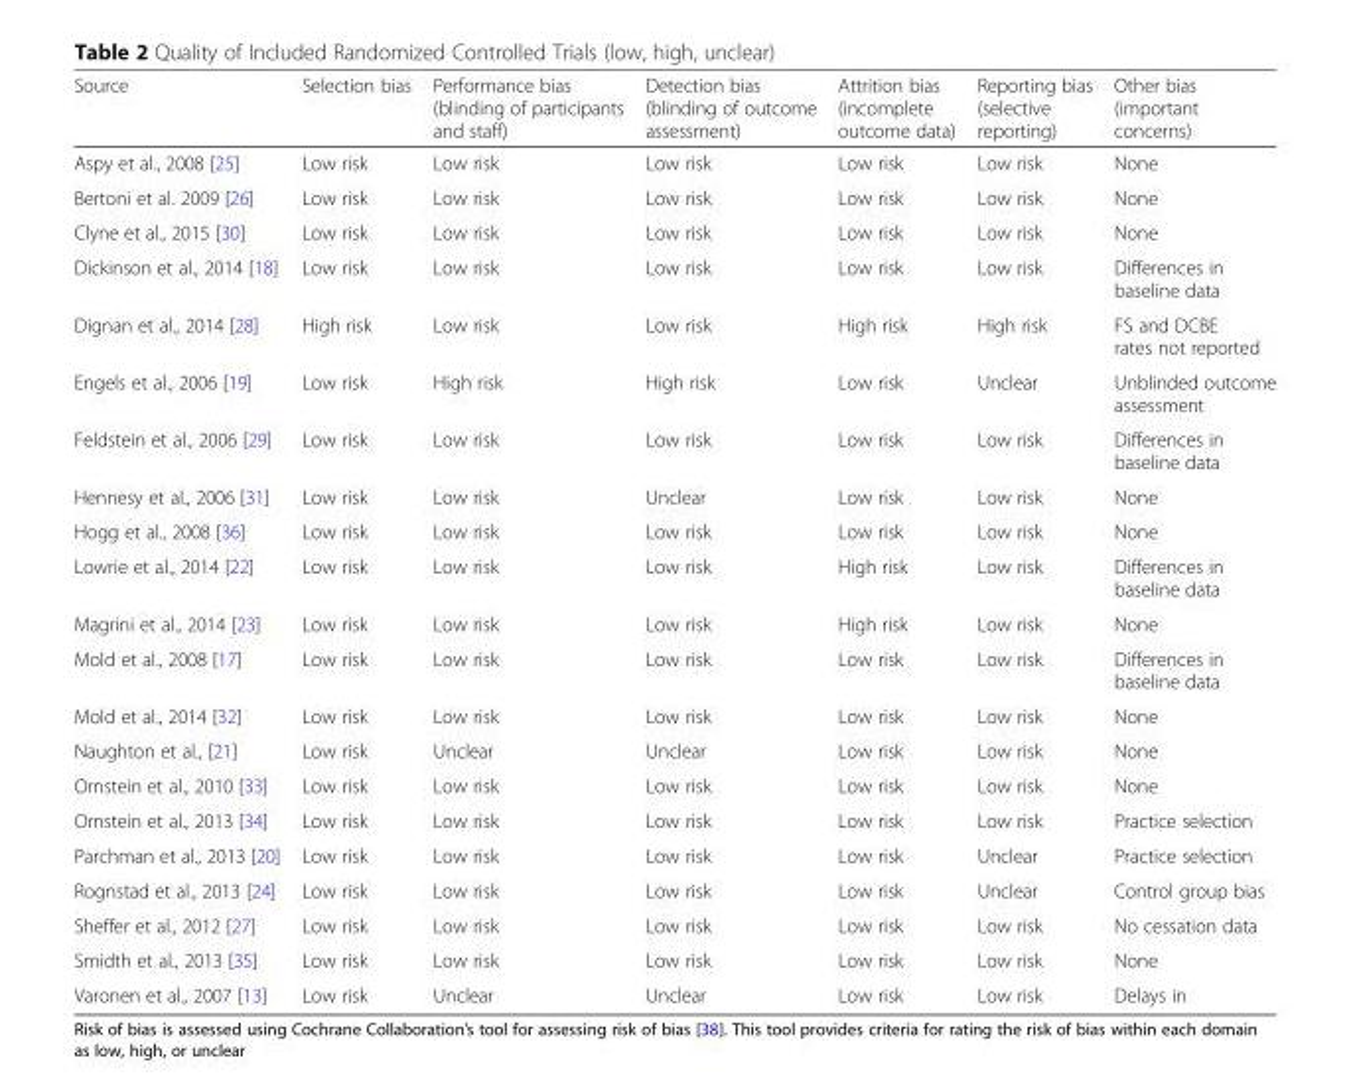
<table><thead><tr><td>Source</td><td>Selection bias</td><td>Performance bias (blinding of participants and staff)</td><td>Detection bias (blinding of outcome assessment)</td><td>Attrition bias (incomplete outcome data)</td><td>Reporting bias (selective reporting)</td><td>Other bias (important concerns)</td></tr></thead><tbody><tr><td>Aspy et al., 2008 [25]</td><td>Low risk</td><td>Low risk</td><td>Low risk</td><td>Low risk</td><td>Low risk</td><td>None</td></tr><tr><td>Bertoni et al. 2009 [26]</td><td>Low risk</td><td>Low risk</td><td>Low risk</td><td>Low risk</td><td>Low risk</td><td>None</td></tr><tr><td>Clyne et al., 2015 [30]</td><td>Low risk</td><td>Low risk</td><td>Low risk</td><td>Low risk</td><td>Low risk</td><td>None</td></tr><tr><td>Dickinson et al., 2014 [18]</td><td>Low risk</td><td>Low risk</td><td>Low risk</td><td>Low risk</td><td>Low risk</td><td>Differences in baseline data</td></tr><tr><td>Dignan et al., 2014 [28]</td><td>High risk</td><td>Low risk</td><td>Low risk</td><td>High risk</td><td>High risk</td><td>FS and DCBE rates not reported</td></tr><tr><td>Engels et al., 2006 [19]</td><td>Low risk</td><td>High risk</td><td>High risk</td><td>Low risk</td><td>Unclear</td><td>Unblinded outcome assessment</td></tr><tr><td>Feldstein et al., 2006 [29]</td><td>Low risk</td><td>Low risk</td><td>Low risk</td><td>Low risk</td><td>Low risk</td><td>Differences in baseline data</td></tr><tr><td>Hennesy et al., 2006 [31]</td><td>Low risk</td><td>Low risk</td><td>Unclear</td><td>Low risk</td><td>Low risk</td><td>None</td></tr><tr><td>Hogg et al., 2008 [36]</td><td>Low risk</td><td>Low risk</td><td>Low risk</td><td>Low risk</td><td>Low risk</td><td>None</td></tr><tr><td>Lowrie et al., 2014 [22]</td><td>Low risk</td><td>Low risk</td><td>Low risk</td><td>High risk</td><td>Low risk</td><td>Differences in baseline data</td></tr><tr><td>Magrini et al., 2014 [23]</td><td>Low risk</td><td>Low risk</td><td>Low risk</td><td>High risk</td><td>Low risk</td><td>None</td></tr><tr><td>Mold et al., 2008 [17]</td><td>Low risk</td><td>Low risk</td><td>Low risk</td><td>Low risk</td><td>Low risk</td><td>Differences in baseline data</td></tr><tr><td>Mold et al., 2014 [32]</td><td>Low risk</td><td>Low risk</td><td>Low risk</td><td>Low risk</td><td>Low risk</td><td>None</td></tr><tr><td>Naughton et al., [21]</td><td>Low risk</td><td>Unclear</td><td>Unclear</td><td>Low risk</td><td>Low risk</td><td>None</td></tr><tr><td>Ornstein et al., 2010 [33]</td><td>Low risk</td><td>Low risk</td><td>Low risk</td><td>Low risk</td><td>Low risk</td><td>None</td></tr><tr><td>Ornstein et al., 2013 [34]</td><td>Low risk</td><td>Low risk</td><td>Low risk</td><td>Low risk</td><td>Low risk</td><td>Practice selection</td></tr><tr><td>Parchman et al., 2013 [20]</td><td>Low risk</td><td>Low risk</td><td>Low risk</td><td>Low risk</td><td>Unclear</td><td>Practice selection</td></tr><tr><td>Rognstad et al., 2013 [24]</td><td>Low risk</td><td>Low risk</td><td>Low risk</td><td>Low risk</td><td>Unclear</td><td>Control group bias</td></tr><tr><td>Sheffer et al., 2012 [27]</td><td>Low risk</td><td>Low risk</td><td>Low risk</td><td>Low risk</td><td>Low risk</td><td>No cessation data</td></tr><tr><td>Smidth et al., 2013 [35]</td><td>Low risk</td><td>Low risk</td><td>Low risk</td><td>Low risk</td><td>Low risk</td><td>None</td></tr><tr><td>Varonen et al., 2007 [13]</td><td>Low risk</td><td>Unclear</td><td>Unclear</td><td>Low risk</td><td>Low risk</td><td>Delays in</td></tr></tbody></table>